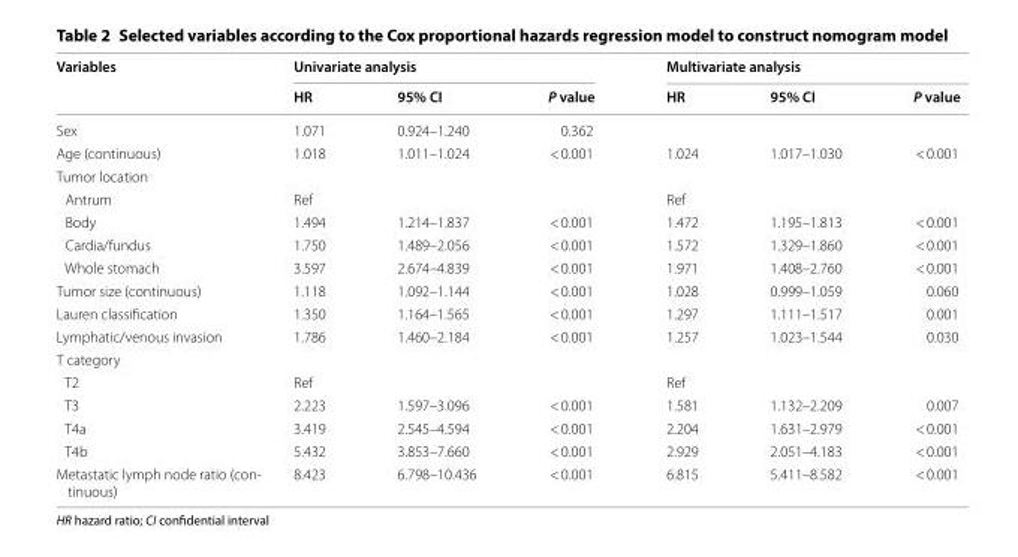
<table><thead><tr><td rowspan="2">Variables</td><td colspan="3">Univariate analysis</td><td colspan="3">Multivariate analysis</td></tr><tr><td>HR</td><td>95% CI</td><td>P value</td><td>HR</td><td>95% CI</td><td>P value</td></tr></thead><tbody><tr><td>Sex</td><td>1.071</td><td>0.924–1.240</td><td>0.362</td><td></td><td></td><td></td></tr><tr><td>Age (continuous)</td><td>1.018</td><td>1.011–1.024</td><td>&lt; 0.001</td><td>1.024</td><td>1.017–1.030</td><td>&lt; 0.001</td></tr><tr><td colspan="7">Tumor location</td></tr><tr><td>Antrum</td><td>Ref</td><td></td><td></td><td>Ref</td><td></td><td></td></tr><tr><td>Body</td><td>1.494</td><td>1.214–1.837</td><td>&lt; 0.001</td><td>1.472</td><td>1.195–1.813</td><td>&lt; 0.001</td></tr><tr><td>Cardia/fundus</td><td>1.750</td><td>1.489–2.056</td><td>&lt; 0.001</td><td>1.572</td><td>1.329–1.860</td><td>&lt; 0.001</td></tr><tr><td>Whole stomach</td><td>3.597</td><td>2.674–4.839</td><td>&lt; 0.001</td><td>1.971</td><td>1.408–2.760</td><td>&lt; 0.001</td></tr><tr><td>Tumor size (continuous)</td><td>1.118</td><td>1.092–1.144</td><td>&lt; 0.001</td><td>1.028</td><td>0.999–1.059</td><td>0.060</td></tr><tr><td>Lauren classification</td><td>1.350</td><td>1.164–1.565</td><td>&lt; 0.001</td><td>1.297</td><td>1.111–1.517</td><td>0.001</td></tr><tr><td>Lymphatic/venous invasion</td><td>1.786</td><td>1.460–2.184</td><td>&lt; 0.001</td><td>1.257</td><td>1.023–1.544</td><td>0.030</td></tr><tr><td colspan="7">T category</td></tr><tr><td>T2</td><td>Ref</td><td></td><td></td><td>Ref</td><td></td><td></td></tr><tr><td>T3</td><td>2.223</td><td>1.597–3.096</td><td>&lt; 0.001</td><td>1.581</td><td>1.132–2.209</td><td>0.007</td></tr><tr><td>T4a</td><td>3.419</td><td>2.545–4.594</td><td>&lt; 0.001</td><td>2.204</td><td>1.631–2.979</td><td>&lt; 0.001</td></tr><tr><td>T4b</td><td>5.432</td><td>3.853–7.660</td><td>&lt; 0.001</td><td>2.929</td><td>2.051–4.183</td><td>&lt; 0.001</td></tr><tr><td>Metastatic lymph node ratio (con‑ tinuous)</td><td>8.423</td><td>6.798–10.436</td><td>&lt; 0.001</td><td>6.815</td><td>5.411–8.582</td><td>&lt; 0.001</td></tr></tbody></table>